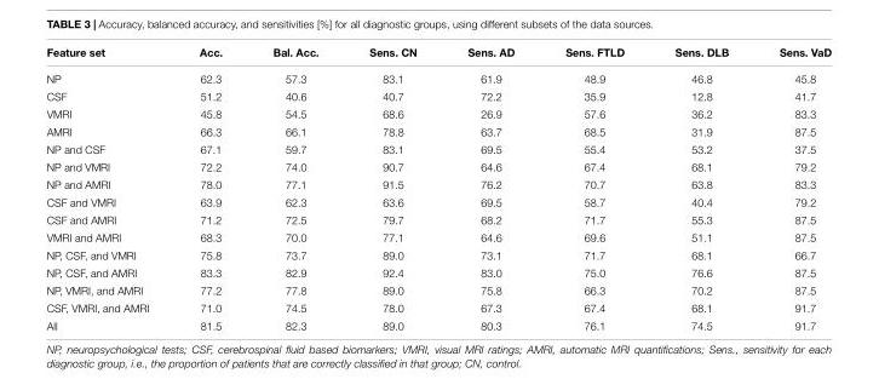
<table><thead><tr><td>Feature set</td><td>Acc.</td><td>Bal. Acc.</td><td>Sens. CN</td><td>Sens. AD</td><td>Sens. FTLD</td><td>Sens. DLB</td><td>Sens. VaD</td></tr></thead><tbody><tr><td>NP</td><td>62.3</td><td>57.3</td><td>83.1</td><td>61.9</td><td>48.9</td><td>46.8</td><td>45.8</td></tr><tr><td>CSF</td><td>51.2</td><td>40.6</td><td>40.7</td><td>72.2</td><td>35.9</td><td>12.8</td><td>41.7</td></tr><tr><td>VMRI</td><td>45.8</td><td>54.5</td><td>68.6</td><td>26.9</td><td>57.6</td><td>36.2</td><td>83.3</td></tr><tr><td>AMRI</td><td>66.3</td><td>66.1</td><td>78.8</td><td>63.7</td><td>68.5</td><td>31.9</td><td>87.5</td></tr><tr><td>NP and CSF</td><td>67.1</td><td>59.7</td><td>83.1</td><td>69.5</td><td>55.4</td><td>53.2</td><td>37.5</td></tr><tr><td>NP and VMRI</td><td>72.2</td><td>74.0</td><td>90.7</td><td>64.6</td><td>67.4</td><td>68.1</td><td>79.2</td></tr><tr><td>NP and AMRI</td><td>78.0</td><td>77.1</td><td>91.5</td><td>76.2</td><td>70.7</td><td>63.8</td><td>83.3</td></tr><tr><td>CSF and VMRI</td><td>63.9</td><td>62.3</td><td>63.6</td><td>69.5</td><td>58.7</td><td>40.4</td><td>79.2</td></tr><tr><td>CSF and AMRI</td><td>71.2</td><td>72.5</td><td>79.7</td><td>68.2</td><td>71.7</td><td>55.3</td><td>87.5</td></tr><tr><td>VMRI and AMRI</td><td>68.3</td><td>70.0</td><td>77.1</td><td>64.6</td><td>69.6</td><td>51.1</td><td>87.5</td></tr><tr><td>NP, CSF, and VMRI</td><td>75.8</td><td>73.7</td><td>89.0</td><td>73.1</td><td>71.7</td><td>68.1</td><td>66.7</td></tr><tr><td>NP, CSF, and AMRI</td><td>83.3</td><td>82.9</td><td>92.4</td><td>83.0</td><td>75.0</td><td>76.6</td><td>87.5</td></tr><tr><td>NP, VMRI, and AMRI</td><td>77.2</td><td>77.8</td><td>89.0</td><td>75.8</td><td>66.3</td><td>70.2</td><td>87.5</td></tr><tr><td>CSF, VMRI, and AMRI</td><td>71.0</td><td>74.5</td><td>78.0</td><td>67.3</td><td>67.4</td><td>68.1</td><td>91.7</td></tr><tr><td>All</td><td>81.5</td><td>82.3</td><td>89.0</td><td>80.3</td><td>76.1</td><td>74.5</td><td>91.7</td></tr></tbody></table>